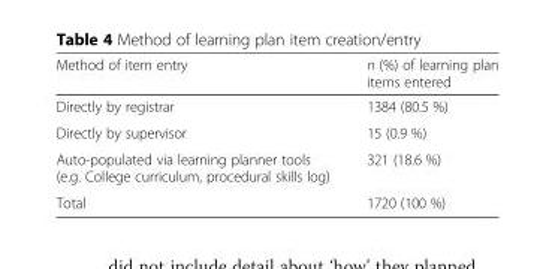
<table><thead><tr><td>Method of item entry</td><td>n (%) of learning plan items entered</td></tr></thead><tbody><tr><td>Directly by registrar</td><td>1384 (80.5 %)</td></tr><tr><td>Directly by supervisor</td><td>15 (0.9 %)</td></tr><tr><td>Auto-populated via learning planner tools (e.g. College curriculum, procedural skills log)</td><td>321 (18.6 %)</td></tr><tr><td>Total</td><td>1720 (100 %)</td></tr></tbody></table>